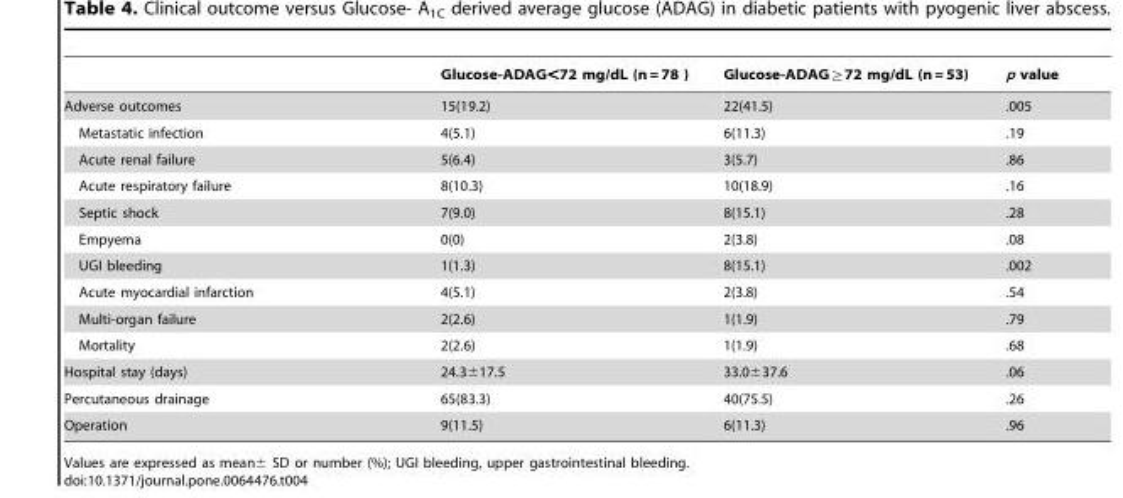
<table><thead><tr><td></td><td>Glucose-ADAG&lt;72 mg/dL (n = 78 )</td><td>Glucose-ADAG≧72 mg/dL (n = 53)</td><td>p value</td></tr></thead><tbody><tr><td>Adverse outcomes</td><td>15(19.2)</td><td>22(41.5)</td><td>.005</td></tr><tr><td>Metastatic infection</td><td>4(5.1)</td><td>6(11.3)</td><td>.19</td></tr><tr><td>Acute renal failure</td><td>5(6.4)</td><td>3(5.7)</td><td>.86</td></tr><tr><td>Acute respiratory failure</td><td>8(10.3)</td><td>10(18.9)</td><td>.16</td></tr><tr><td>Septic shock</td><td>7(9.0)</td><td>8(15.1)</td><td>.28</td></tr><tr><td>Empyema</td><td>0(0)</td><td>2(3.8)</td><td>.08</td></tr><tr><td>UGI bleeding</td><td>1(1.3)</td><td>8(15.1)</td><td>.002</td></tr><tr><td>Acute myocardial infarction</td><td>4(5.1)</td><td>2(3.8)</td><td>.54</td></tr><tr><td>Multi-organ failure</td><td>2(2.6)</td><td>1(1.9)</td><td>.79</td></tr><tr><td>Mortality</td><td>2(2.6)</td><td>1(1.9)</td><td>.68</td></tr><tr><td>Hospital stay (days)</td><td>24.3±17.5</td><td>33.0±37.6</td><td>.06</td></tr><tr><td>Percutaneous drainage</td><td>65(83.3)</td><td>40(75.5)</td><td>.26</td></tr><tr><td>Operation</td><td>9(11.5)</td><td>6(11.3)</td><td>.96</td></tr></tbody></table>